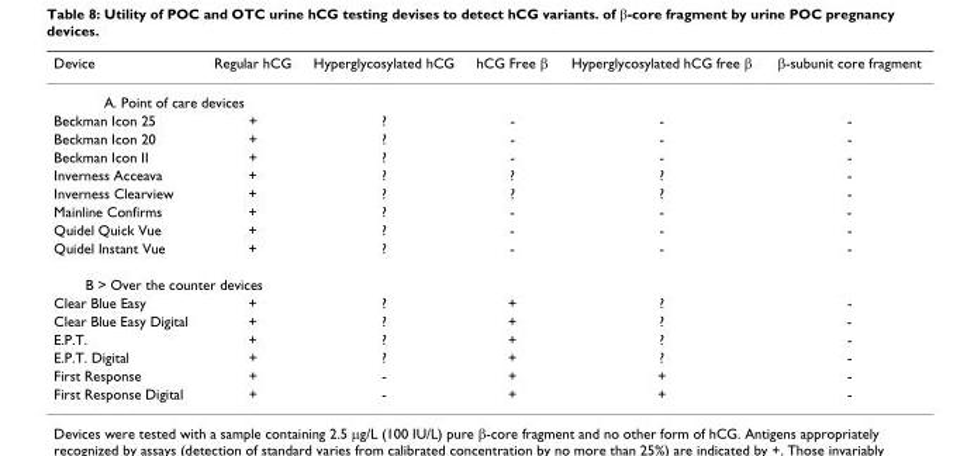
<table><thead><tr><td>Device</td><td>Regular hCG</td><td>Hyperglycosylated hCG</td><td>hCG Free β</td><td>Hyperglycosylated hCG free β</td><td>β-subunit core fragment</td></tr></thead><tbody><tr><td colspan="6">A. Point of care devices</td></tr><tr><td>Beckman Icon 25</td><td>+</td><td>?</td><td>-</td><td>-</td><td>-</td></tr><tr><td>Beckman Icon 20</td><td>+</td><td>?</td><td>-</td><td>-</td><td>-</td></tr><tr><td>Beckman Icon II</td><td>+</td><td>?</td><td>-</td><td>-</td><td>-</td></tr><tr><td>Inverness Acceava</td><td>+</td><td>?</td><td>?</td><td>?</td><td>-</td></tr><tr><td>Inverness Clearview</td><td>+</td><td>?</td><td>?</td><td>?</td><td>-</td></tr><tr><td>Mainline Confirms</td><td>+</td><td>?</td><td>-</td><td>-</td><td>-</td></tr><tr><td>Quidel Quick Vue</td><td>+</td><td>?</td><td>-</td><td>-</td><td>-</td></tr><tr><td>Quidel Instant Vue</td><td>+</td><td>?</td><td>-</td><td>-</td><td>-</td></tr><tr><td colspan="6">B &gt; Over the counter devices</td></tr><tr><td>Clear Blue Easy</td><td>+</td><td>?</td><td>+</td><td>?</td><td>-</td></tr><tr><td>Clear Blue Easy Digital</td><td>+</td><td>?</td><td>+</td><td>?</td><td>-</td></tr><tr><td>E.P.T.</td><td>+</td><td>?</td><td>+</td><td>?</td><td>-</td></tr><tr><td>E.P.T. Digital</td><td>+</td><td>?</td><td>+</td><td>?</td><td>-</td></tr><tr><td>First Response</td><td>+</td><td>-</td><td>+</td><td>+</td><td>-</td></tr><tr><td>First Response Digital</td><td>+</td><td>-</td><td>+</td><td>+</td><td>-</td></tr></tbody></table>